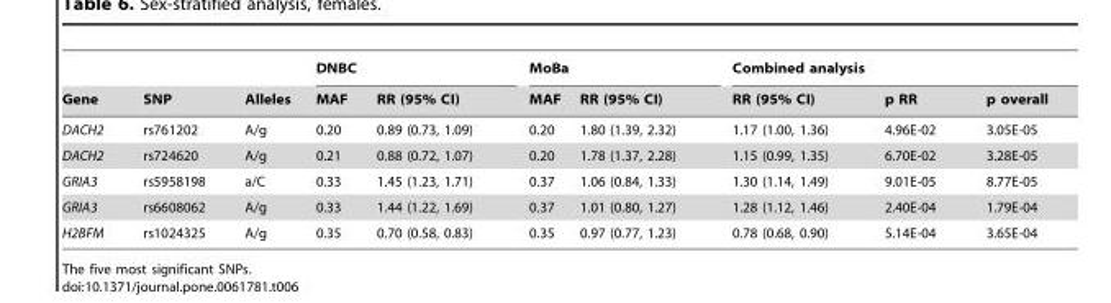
<table><thead><tr><td rowspan="2">Gene</td><td rowspan="2">SNP</td><td rowspan="2">Alleles</td><td colspan="2">DNBC</td><td colspan="2">MoBa</td><td colspan="3">Combined analysis</td></tr><tr><td>MAF</td><td>RR (95% CI)</td><td>MAF</td><td>RR (95% CI)</td><td>RR (95% CI)</td><td>p RR</td><td>p overall</td></tr></thead><tbody><tr><td>DACH2</td><td>rs761202</td><td>A/g</td><td>0.20</td><td>0.89 (0.73, 1.09)</td><td>0.20</td><td>1.80 (1.39, 2.32)</td><td>1.17 (1.00, 1.36)</td><td>4.96E-02</td><td>3.05E-05</td></tr><tr><td>DACH2</td><td>rs724620</td><td>A/g</td><td>0.21</td><td>0.88 (0.72, 1.07)</td><td>0.20</td><td>1.78 (1.37, 2.28)</td><td>1.15 (0.99, 1.35)</td><td>6.70E-02</td><td>3.28E-05</td></tr><tr><td>GRIA3</td><td>rs5958198</td><td>a/C</td><td>0.33</td><td>1.45 (1.23, 1.71)</td><td>0.37</td><td>1.06 (0.84, 1.33)</td><td>1.30 (1.14, 1.49)</td><td>9.01E-05</td><td>8.77E-05</td></tr><tr><td>GRIA3</td><td>rs6608062</td><td>A/g</td><td>0.33</td><td>1.44 (1.22, 1.69)</td><td>0.37</td><td>1.01 (0.80, 1.27)</td><td>1.28 (1.12, 1.46)</td><td>2.40E-04</td><td>1.79E-04</td></tr><tr><td>H2BFM</td><td>rs1024325</td><td>A/g</td><td>0.35</td><td>0.70 (0.58, 0.83)</td><td>0.35</td><td>0.97 (0.77, 1.23)</td><td>0.78 (0.68, 0.90)</td><td>5.14E-04</td><td>3.65E-04</td></tr></tbody></table>